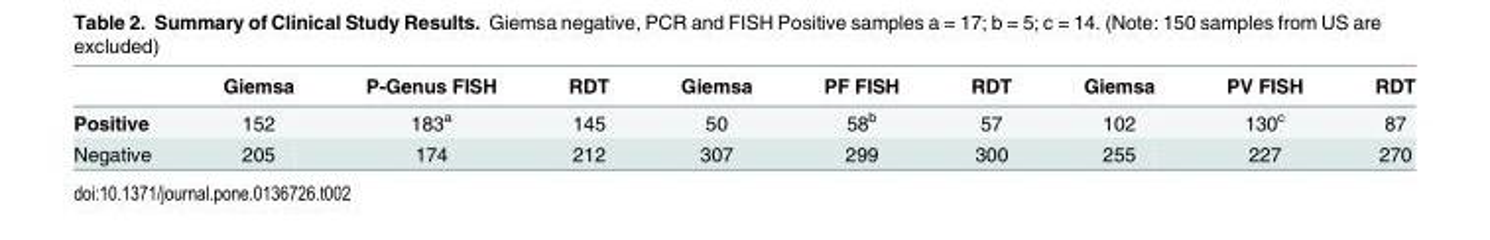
<table><thead><tr><td></td><td>Giemsa</td><td>P-Genus FISH</td><td>RDT</td><td>Giemsa</td><td>PF FISH</td><td>RDT</td><td>Giemsa</td><td>PV FISH</td><td>RDT</td></tr></thead><tbody><tr><td>Positive</td><td>152</td><td>183<sup>a</sup></td><td>145</td><td>50</td><td>58<sup>b</sup></td><td>57</td><td>102</td><td>130<sup>c</sup></td><td>87</td></tr><tr><td>Negative</td><td>205</td><td>174</td><td>212</td><td>307</td><td>299</td><td>300</td><td>255</td><td>227</td><td>270</td></tr></tbody></table>